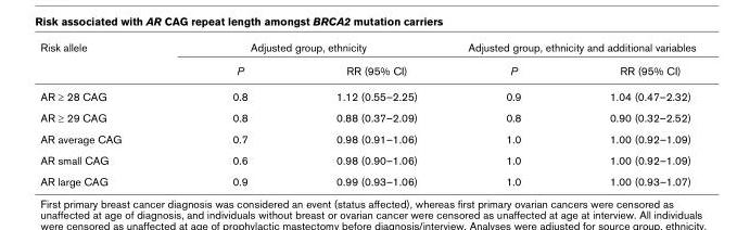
<table><thead><tr><td rowspan="2">Risk allele</td><td colspan="2">Adjusted group, ethnicity</td><td colspan="2">Adjusted group, ethnicity and additional variables</td></tr><tr><td>P</td><td>RR (95% CI)</td><td>P</td><td>RR (95% CI)</td></tr></thead><tbody><tr><td>AR ≥ 28 CAG</td><td>0.8</td><td>1.12 (0.55–2.25)</td><td>0.9</td><td>1.04 (0.47–2.32)</td></tr><tr><td>AR ≥ 29 CAG</td><td>0.8</td><td>0.88 (0.37–2.09)</td><td>0.8</td><td>0.90 (0.32–2.52)</td></tr><tr><td>AR average CAG</td><td>0.7</td><td>0.98 (0.91–1.06)</td><td>1.0</td><td>1.00 (0.92–1.09)</td></tr><tr><td>AR small CAG</td><td>0.6</td><td>0.98 (0.90–1.06)</td><td>1.0</td><td>1.00 (0.92–1.09)</td></tr><tr><td>AR large CAG</td><td>0.9</td><td>0.99 (0.93–1.06)</td><td>1.0</td><td>1.00 (0.93–1.07)</td></tr></tbody></table>